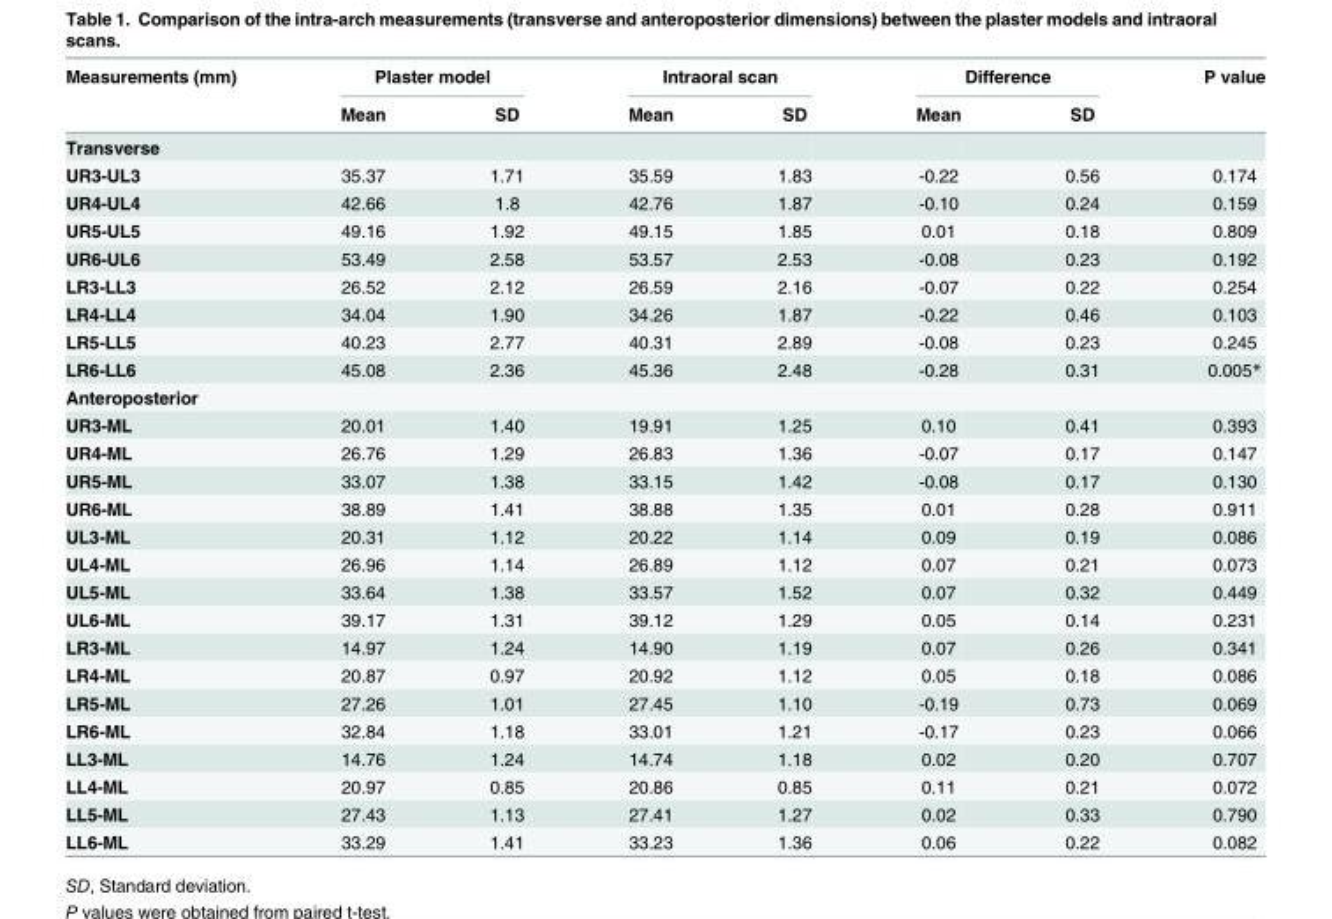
<table><thead><tr><td rowspan="2">Measurements (mm)</td><td colspan="2">Plaster model</td><td colspan="2">Intraoral scan</td><td colspan="2">Difference</td><td rowspan="2">P value</td></tr><tr><td>Mean</td><td>SD</td><td>Mean</td><td>SD</td><td>Mean</td><td>SD</td></tr></thead><tbody><tr><td colspan="8">Transverse</td></tr><tr><td>UR3-UL3</td><td>35.37</td><td>1.71</td><td>35.59</td><td>1.83</td><td>-0.22</td><td>0.56</td><td>0.174</td></tr><tr><td>UR4-UL4</td><td>42.66</td><td>1.8</td><td>42.76</td><td>1.87</td><td>-0.10</td><td>0.24</td><td>0.159</td></tr><tr><td>UR5-UL5</td><td>49.16</td><td>1.92</td><td>49.15</td><td>1.85</td><td>0.01</td><td>0.18</td><td>0.809</td></tr><tr><td>UR6-UL6</td><td>53.49</td><td>2.58</td><td>53.57</td><td>2.53</td><td>-0.08</td><td>0.23</td><td>0.192</td></tr><tr><td>LR3-LL3</td><td>26.52</td><td>2.12</td><td>26.59</td><td>2.16</td><td>-0.07</td><td>0.22</td><td>0.254</td></tr><tr><td>LR4-LL4</td><td>34.04</td><td>1.90</td><td>34.26</td><td>1.87</td><td>-0.22</td><td>0.46</td><td>0.103</td></tr><tr><td>LR5-LL5</td><td>40.23</td><td>2.77</td><td>40.31</td><td>2.89</td><td>-0.08</td><td>0.23</td><td>0.245</td></tr><tr><td>LR6-LL6</td><td>45.08</td><td>2.36</td><td>45.36</td><td>2.48</td><td>-0.28</td><td>0.31</td><td>0.005*</td></tr><tr><td colspan="8">Anteroposterior</td></tr><tr><td>UR3-ML</td><td>20.01</td><td>1.40</td><td>19.91</td><td>1.25</td><td>0.10</td><td>0.41</td><td>0.393</td></tr><tr><td>UR4-ML</td><td>26.76</td><td>1.29</td><td>26.83</td><td>1.36</td><td>-0.07</td><td>0.17</td><td>0.147</td></tr><tr><td>UR5-ML</td><td>33.07</td><td>1.38</td><td>33.15</td><td>1.42</td><td>-0.08</td><td>0.17</td><td>0.130</td></tr><tr><td>UR6-ML</td><td>38.89</td><td>1.41</td><td>38.88</td><td>1.35</td><td>0.01</td><td>0.28</td><td>0.911</td></tr><tr><td>UL3-ML</td><td>20.31</td><td>1.12</td><td>20.22</td><td>1.14</td><td>0.09</td><td>0.19</td><td>0.086</td></tr><tr><td>UL4-ML</td><td>26.96</td><td>1.14</td><td>26.89</td><td>1.12</td><td>0.07</td><td>0.21</td><td>0.073</td></tr><tr><td>UL5-ML</td><td>33.64</td><td>1.38</td><td>33.57</td><td>1.52</td><td>0.07</td><td>0.32</td><td>0.449</td></tr><tr><td>UL6-ML</td><td>39.17</td><td>1.31</td><td>39.12</td><td>1.29</td><td>0.05</td><td>0.14</td><td>0.231</td></tr><tr><td>LR3-ML</td><td>14.97</td><td>1.24</td><td>14.90</td><td>1.19</td><td>0.07</td><td>0.26</td><td>0.341</td></tr><tr><td>LR4-ML</td><td>20.87</td><td>0.97</td><td>20.92</td><td>1.12</td><td>0.05</td><td>0.18</td><td>0.086</td></tr><tr><td>LR5-ML</td><td>27.26</td><td>1.01</td><td>27.45</td><td>1.10</td><td>-0.19</td><td>0.73</td><td>0.069</td></tr><tr><td>LR6-ML</td><td>32.84</td><td>1.18</td><td>33.01</td><td>1.21</td><td>-0.17</td><td>0.23</td><td>0.066</td></tr><tr><td>LL3-ML</td><td>14.76</td><td>1.24</td><td>14.74</td><td>1.18</td><td>0.02</td><td>0.20</td><td>0.707</td></tr><tr><td>LL4-ML</td><td>20.97</td><td>0.85</td><td>20.86</td><td>0.85</td><td>0.11</td><td>0.21</td><td>0.072</td></tr><tr><td>LL5-ML</td><td>27.43</td><td>1.13</td><td>27.41</td><td>1.27</td><td>0.02</td><td>0.33</td><td>0.790</td></tr><tr><td>LL6-ML</td><td>33.29</td><td>1.41</td><td>33.23</td><td>1.36</td><td>0.06</td><td>0.22</td><td>0.082</td></tr></tbody></table>